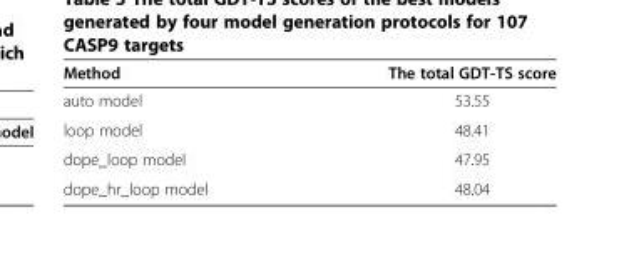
<table><thead><tr><td>Method</td><td>The total GDT-TS score</td></tr></thead><tbody><tr><td>auto model</td><td>53.55</td></tr><tr><td>loop model</td><td>48.41</td></tr><tr><td>dope_loop model</td><td>47.95</td></tr><tr><td>dope_hr_loop model</td><td>48.04</td></tr></tbody></table>